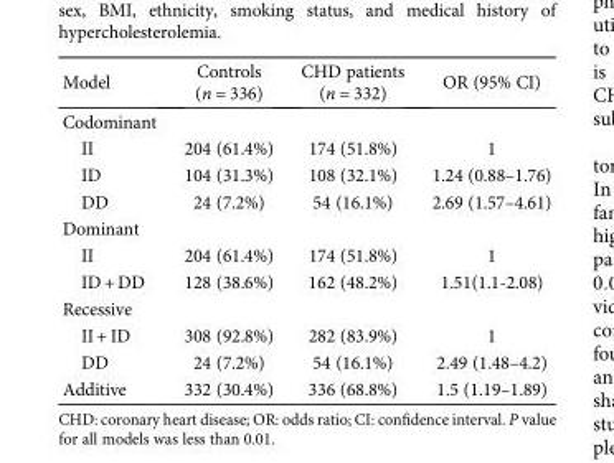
<table><thead><tr><td>Model</td><td>Controls (n = 336)</td><td>CHD patients (n = 332)</td><td>OR (95% CI)</td></tr></thead><tbody><tr><td colspan="4">Codominant</td></tr><tr><td>II</td><td>204 (61.4%)</td><td>174 (51.8%)</td><td>1</td></tr><tr><td>ID</td><td>104 (31.3%)</td><td>108 (32.1%)</td><td>1.24 (0.88–1.76)</td></tr><tr><td>DD</td><td>24 (7.2%)</td><td>54 (16.1%)</td><td>2.69 (1.57–4.61)</td></tr><tr><td colspan="4">Dominant</td></tr><tr><td>II</td><td>204 (61.4%)</td><td>174 (51.8%)</td><td>1</td></tr><tr><td>ID + DD</td><td>128 (38.6%)</td><td>162 (48.2%)</td><td>1.51(1.1-2.08)</td></tr><tr><td colspan="4">Recessive</td></tr><tr><td>II + ID</td><td>308 (92.8%)</td><td>282 (83.9%)</td><td>1</td></tr><tr><td>DD</td><td>24 (7.2%)</td><td>54 (16.1%)</td><td>2.49 (1.48–4.2)</td></tr><tr><td>Additive</td><td>332 (30.4%)</td><td>336 (68.8%)</td><td>1.5 (1.19–1.89)</td></tr></tbody></table>